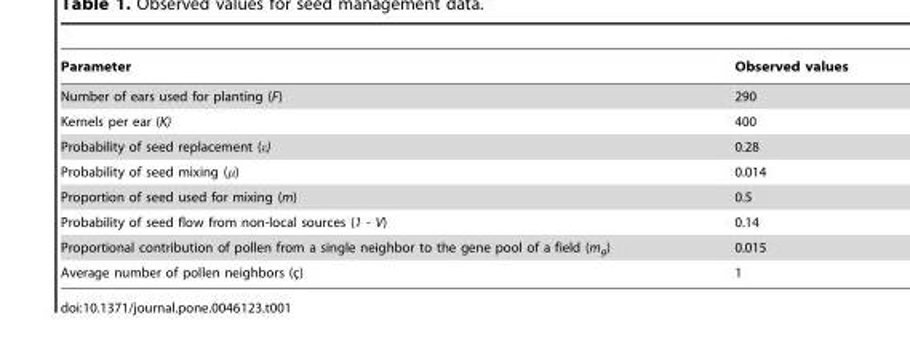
<table><thead><tr><td>Parameter</td><td>Observed values</td></tr></thead><tbody><tr><td>Number of ears used for planting (F)</td><td>290</td></tr><tr><td>Kernels per ear (K)</td><td>400</td></tr><tr><td>Probability of seed replacement (ε)</td><td>0.28</td></tr><tr><td>Probability of seed mixing (μ)</td><td>0.014</td></tr><tr><td>Proportion of seed used for mixing (m)</td><td>0.5</td></tr><tr><td>Probability of seed flow from non-local sources (1 - V)</td><td>0.14</td></tr><tr><td>Proportional contribution of pollen from a single neighbor to the gene pool of a field (m<sub>g</sub>)</td><td>0.015</td></tr><tr><td>Average number of pollen neighbors (c¸)</td><td>1</td></tr></tbody></table>